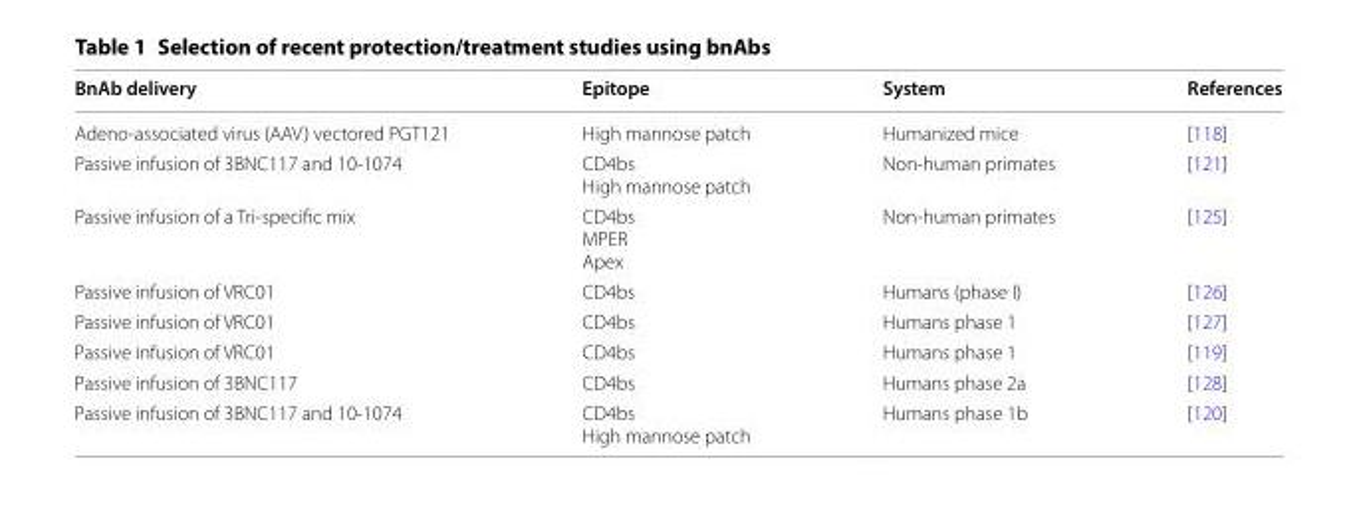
<table><thead><tr><td>BnAb delivery</td><td>Epitope</td><td>System</td><td>References</td></tr></thead><tbody><tr><td>Adeno-associated virus (AAV) vectored PGT121</td><td>High mannose patch</td><td>Humanized mice</td><td>[118]</td></tr><tr><td>Passive infusion of 3BNC117 and 10-1074</td><td>CD4bs High mannose patch</td><td>Non-human primates</td><td>[121]</td></tr><tr><td>Passive infusion of a Tri-specific mix</td><td>CD4bs MPER Apex</td><td>Non-human primates</td><td>[125]</td></tr><tr><td>Passive infusion of VRC01</td><td>CD4bs</td><td>Humans (phase I)</td><td>[126]</td></tr><tr><td>Passive infusion of VRC01</td><td>CD4bs</td><td>Humans phase 1</td><td>[127]</td></tr><tr><td>Passive infusion of VRC01</td><td>CD4bs</td><td>Humans phase 1</td><td>[119]</td></tr><tr><td>Passive infusion of 3BNC117</td><td>CD4bs</td><td>Humans phase 2a</td><td>[128]</td></tr><tr><td>Passive infusion of 3BNC117 and 10-1074</td><td>CD4bs High mannose patch</td><td>Humans phase 1b</td><td>[120]</td></tr></tbody></table>